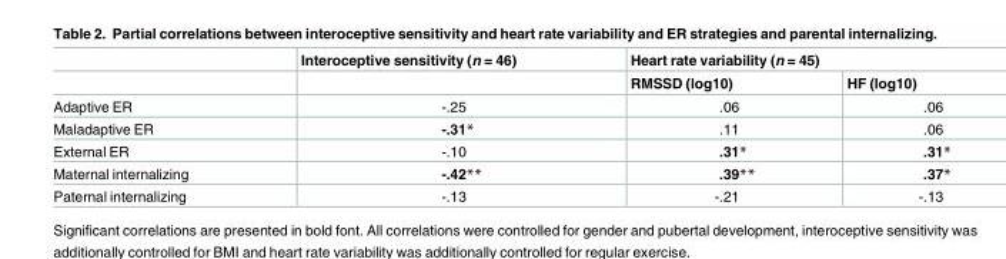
<table><thead><tr><td rowspan="2"></td><td rowspan="2">Interoceptive sensitivity (n = 46)</td><td colspan="2">Heart rate variability (n = 45)</td></tr><tr><td>RMSSD (log10)</td><td>HF (log10)</td></tr></thead><tbody><tr><td>Adaptive ER</td><td>-.25</td><td>.06</td><td>.06</td></tr><tr><td>Maladaptive ER</td><td>-.31*</td><td>.11</td><td>.06</td></tr><tr><td>External ER</td><td>-.10</td><td>.31*</td><td>.31*</td></tr><tr><td>Maternal internalizing</td><td>-.42**</td><td>.39**</td><td>.37*</td></tr><tr><td>Paternal internalizing</td><td>-.13</td><td>-.21</td><td>-.13</td></tr></tbody></table>